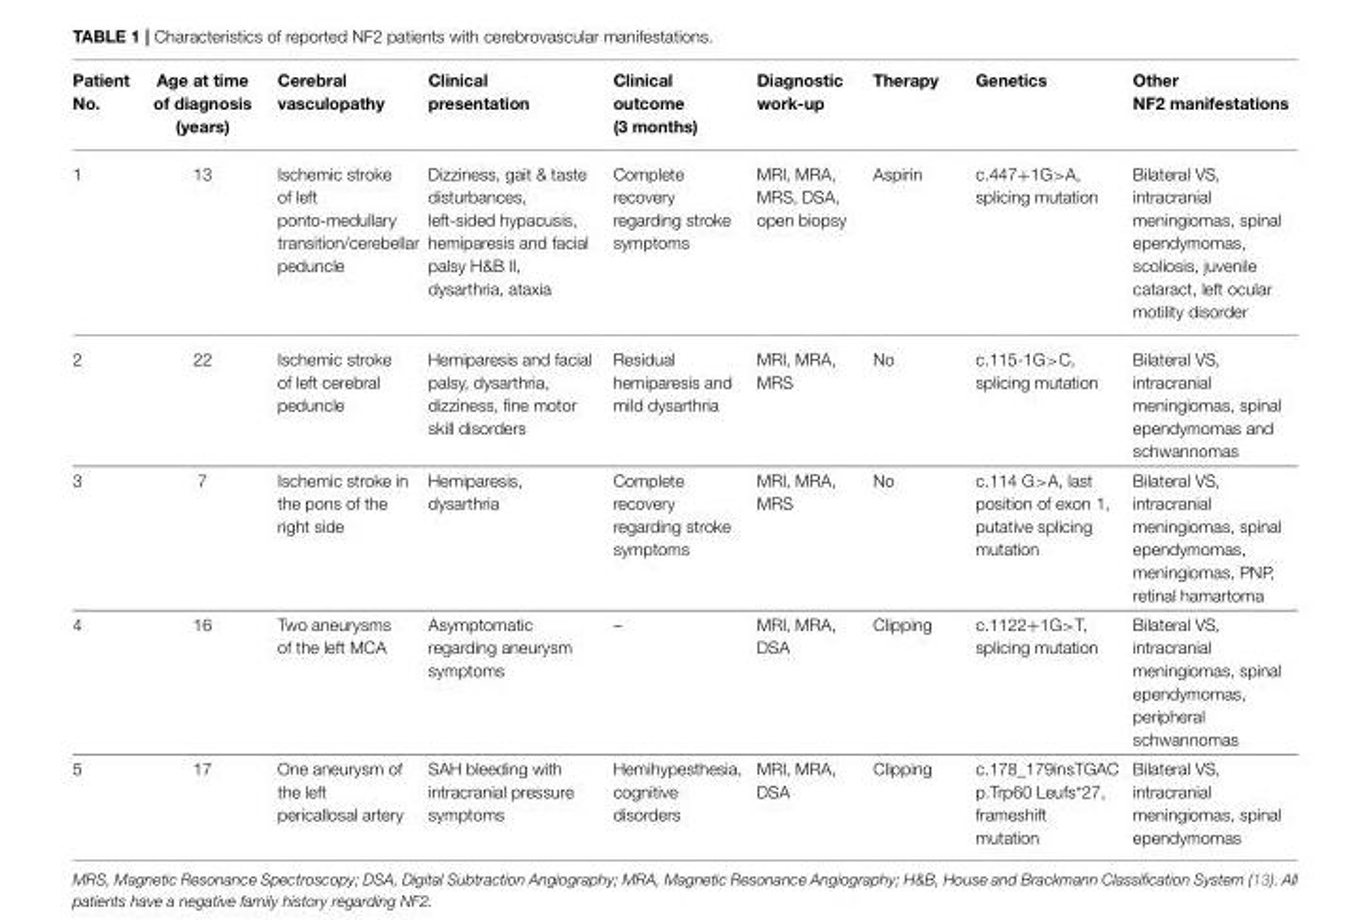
<table><thead><tr><td>Patient No.</td><td>Age at time of diagnosis (years)</td><td>Cerebral vasculopathy</td><td>Clinical presentation</td><td>Clinical outcome (3 months)</td><td>Diagnostic work-up</td><td>Therapy</td><td>Genetics</td><td>Other NF2 manifestations</td></tr></thead><tbody><tr><td>1</td><td>13</td><td>Ischemic stroke of left ponto-medullary transition/cerebellar peduncle</td><td>Dizziness, gait &amp; taste disturbances, left-sided hypacusis, hemiparesis and facial palsy H&amp;B II, dysarthria, ataxia</td><td>Complete recovery regarding stroke symptoms</td><td>MRI, MRA, MRS, DSA, open biopsy</td><td>Aspirin</td><td>c.447+1G&gt;A, splicing mutation</td><td>Bilateral VS, intracranial meningiomas, spinal ependymomas, scoliosis, juvenile cataract, left ocular motility disorder</td></tr><tr><td>2</td><td>22</td><td>Ischemic stroke of left cerebral peduncle</td><td>Hemiparesis and facial palsy, dysarthria, dizziness, fine motor skill disorders</td><td>Residual hemiparesis and mild dysarthria</td><td>MRI, MRA, MRS</td><td>No</td><td>c.115-1G&gt;C, splicing mutation</td><td>Bilateral VS, intracranial meningiomas, spinal ependymomas and schwannomas</td></tr><tr><td>3</td><td>7</td><td>Ischemic stroke in the pons of the right side</td><td>Hemiparesis, dysarthria</td><td>Complete recovery regarding stroke symptoms</td><td>MRI, MRA, MRS</td><td>No</td><td>c.114 G&gt;A, last position of exon 1, putative splicing mutation</td><td>Bilateral VS, intracranial meningiomas, spinal ependymomas, meningiomas, PNP, retinal hamartoma</td></tr><tr><td>4</td><td>16</td><td>Two aneurysms of the left MCA</td><td>Asymptomatic regarding aneurysm symptoms</td><td>–</td><td>MRI, MRA, DSA</td><td>Clipping</td><td>c.1122+1G&gt;T, splicing mutation</td><td>Bilateral VS, intracranial meningiomas, spinal ependymomas, peripheral schwannomas</td></tr><tr><td>5</td><td>17</td><td>One aneurysm of the left pericallosal artery</td><td>SAH bleeding with intracranial pressure symptoms</td><td>Hemihypesthesia, cognitive disorders</td><td>MRI, MRA, DSA</td><td>Clipping</td><td>c.178_179insTGAC p.Trp60 Leufs*27, frameshift mutation</td><td>Bilateral VS, intracranial meningiomas, spinal ependymomas</td></tr></tbody></table>